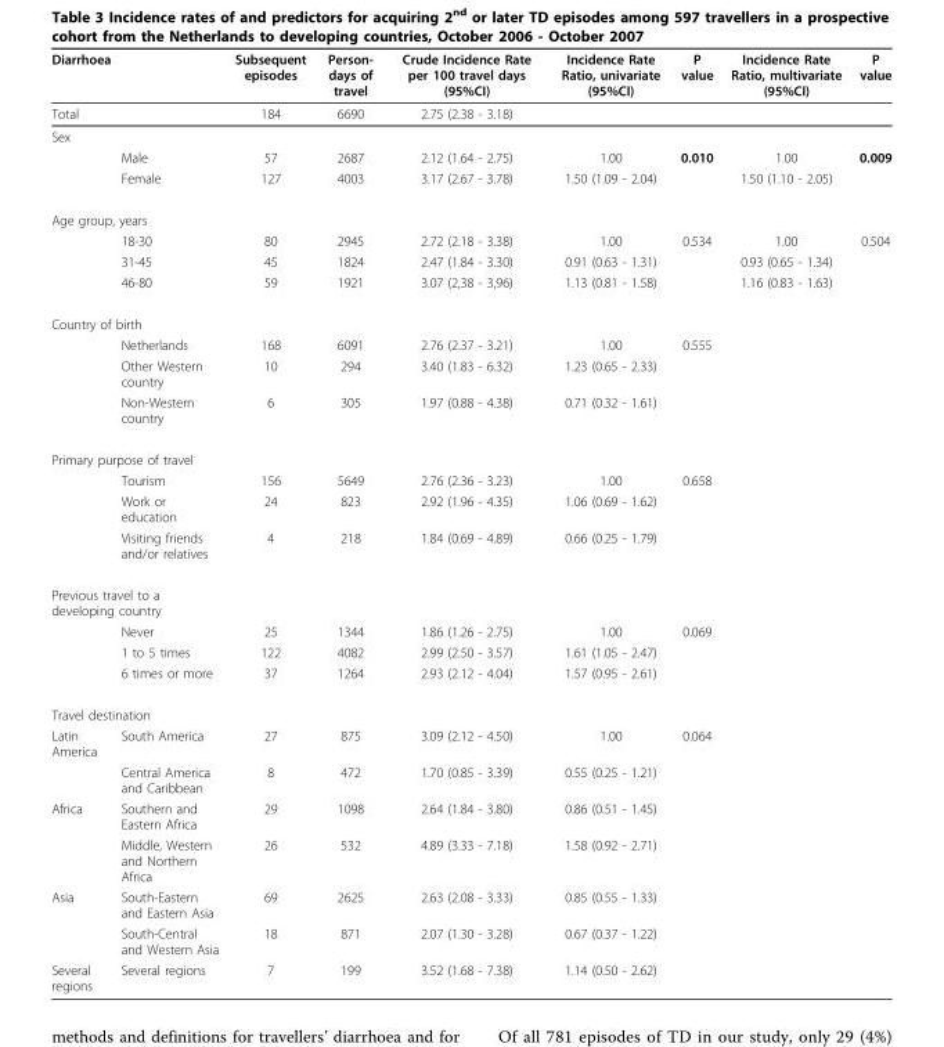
<table><thead><tr><td>Diarrhoea</td><td></td><td>Subsequent episodes</td><td>Person- days of travel</td><td>Crude Incidence Rate per 100 travel days (95%CI)</td><td>Incidence Rate Ratio, univariate (95%CI)</td><td>P value</td><td>Incidence Rate Ratio, multivariate (95%CI)</td><td>P value</td></tr></thead><tbody><tr><td>Total</td><td></td><td>184</td><td>6690</td><td>2.75 (2.38 - 3.18)</td><td></td><td></td><td></td><td></td></tr><tr><td colspan="9">Sex</td></tr><tr><td></td><td>Male</td><td>57</td><td>2687</td><td>2.12 (1.64 - 2.75)</td><td>1.00</td><td>0.010</td><td>1.00</td><td>0.009</td></tr><tr><td></td><td>Female</td><td>127</td><td>4003</td><td>3.17 (2.67 - 3.78)</td><td>1.50 (1.09 - 2.04)</td><td></td><td>1.50 (1.10 - 2.05)</td><td></td></tr><tr><td colspan="9">Age group, years</td></tr><tr><td></td><td>18-30</td><td>80</td><td>2945</td><td>2.72 (2.18 - 3.38)</td><td>1.00</td><td>0.534</td><td>1.00</td><td>0.504</td></tr><tr><td></td><td>31-45</td><td>45</td><td>1824</td><td>2.47 (1.84 - 3.30)</td><td>0.91 (0.63 - 1.31)</td><td></td><td>0.93 (0.65 - 1.34)</td><td></td></tr><tr><td></td><td>46-80</td><td>59</td><td>1921</td><td>3.07 (2,38 - 3,96)</td><td>1.13 (0.81 - 1.58)</td><td></td><td>1.16 (0.83 - 1.63)</td><td></td></tr><tr><td colspan="9">Country of birth</td></tr><tr><td></td><td>Netherlands</td><td>168</td><td>6091</td><td>2.76 (2.37 - 3.21)</td><td>1.00</td><td>0.555</td><td></td><td></td></tr><tr><td></td><td>Other Western country</td><td>10</td><td>294</td><td>3.40 (1.83 - 6.32)</td><td>1.23 (0.65 - 2.33)</td><td></td><td></td><td></td></tr><tr><td></td><td>Non-Western country</td><td>6</td><td>305</td><td>1.97 (0.88 - 4.38)</td><td>0.71 (0.32 - 1.61)</td><td></td><td></td><td></td></tr><tr><td colspan="9">Primary purpose of travel</td></tr><tr><td></td><td>Tourism</td><td>156</td><td>5649</td><td>2.76 (2.36 - 3.23)</td><td>1.00</td><td>0.658</td><td></td><td></td></tr><tr><td></td><td>Work or education</td><td>24</td><td>823</td><td>2.92 (1.96 - 4.35)</td><td>1.06 (0.69 - 1.62)</td><td></td><td></td><td></td></tr><tr><td></td><td>Visiting friends and/or relatives</td><td>4</td><td>218</td><td>1.84 (0.69 - 4.89)</td><td>0.66 (0.25 - 1.79)</td><td></td><td></td><td></td></tr><tr><td colspan="9">Previous travel to a developing country</td></tr><tr><td></td><td>Never</td><td>25</td><td>1344</td><td>1.86 (1.26 - 2.75)</td><td>1.00</td><td>0.069</td><td></td><td></td></tr><tr><td></td><td>1 to 5 times</td><td>122</td><td>4082</td><td>2.99 (2.50 - 3.57)</td><td>1.61 (1.05 - 2.47)</td><td></td><td></td><td></td></tr><tr><td></td><td>6 times or more</td><td>37</td><td>1264</td><td>2.93 (2.12 - 4.04)</td><td>1.57 (0.95 - 2.61)</td><td></td><td></td><td></td></tr><tr><td colspan="9">Travel destination</td></tr><tr><td rowspan="2">Latin America</td><td>South America</td><td>27</td><td>875</td><td>3.09 (2.12 - 4.50)</td><td>1.00</td><td>0.064</td><td></td><td></td></tr><tr><td>Central America and Caribbean</td><td>8</td><td>472</td><td>1.70 (0.85 - 3.39)</td><td>0.55 (0.25 - 1.21)</td><td></td><td></td><td></td></tr><tr><td rowspan="2">Africa</td><td>Southern and Eastern Africa</td><td>29</td><td>1098</td><td>2.64 (1.84 - 3.80)</td><td>0.86 (0.51 - 1.45)</td><td></td><td></td><td></td></tr><tr><td>Middle, Western and Northern Africa</td><td>26</td><td>532</td><td>4.89 (3.33 - 7.18)</td><td>1.58 (0.92 - 2.71)</td><td></td><td></td><td></td></tr><tr><td rowspan="2">Asia</td><td>South-Eastern and Eastern Asia</td><td>69</td><td>2625</td><td>2.63 (2.08 - 3.33)</td><td>0.85 (0.55 - 1.33)</td><td></td><td></td><td></td></tr><tr><td>South-Central and Western Asia</td><td>18</td><td>871</td><td>2.07 (1.30 - 3.28)</td><td>0.67 (0.37 - 1.22)</td><td></td><td></td><td></td></tr><tr><td>Several regions</td><td>Several regions</td><td>7</td><td>199</td><td>3.52 (1.68 - 7.38)</td><td>1.14 (0.50 - 2.62)</td><td></td><td></td><td></td></tr></tbody></table>